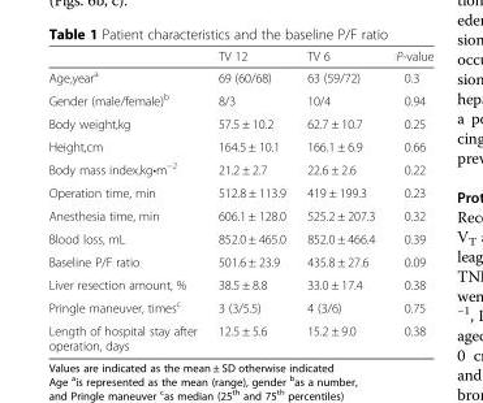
<table><thead><tr><td></td><td>TV 12</td><td>TV 6</td><td>P-value</td></tr></thead><tbody><tr><td>Age,year<sup>a</sup></td><td>69 (60/68)</td><td>63 (59/72)</td><td>0.3</td></tr><tr><td>Gender (male/female)<sup>b</sup></td><td>8/3</td><td>10/4</td><td>0.94</td></tr><tr><td>Body weight,kg</td><td>57.5 ± 10.2</td><td>62.7 ± 10.7</td><td>0.25</td></tr><tr><td>Height,cm</td><td>164.5 ± 10.1</td><td>166.1 ± 6.9</td><td>0.66</td></tr><tr><td>Body mass index,kg•m<sup>−2</sup></td><td>21.2 ± 2.7</td><td>22.6 ± 2.6</td><td>0.22</td></tr><tr><td>Operation time, min</td><td>512.8 ± 113.9</td><td>419 ± 199.3</td><td>0.23</td></tr><tr><td>Anesthesia time, min</td><td>606.1 ± 128.0</td><td>525.2 ± 207.3</td><td>0.32</td></tr><tr><td>Blood loss, mL</td><td>852.0 ± 465.0</td><td>852.0 ± 466.4</td><td>0.39</td></tr><tr><td>Baseline P/F ratio</td><td>501.6 ± 23.9</td><td>435.8 ± 27.6</td><td>0.09</td></tr><tr><td>Liver resection amount, %</td><td>38.5 ± 8.8</td><td>33.0 ± 17.4</td><td>0.38</td></tr><tr><td>Pringle maneuver, times<sup>c</sup></td><td>3 (3/5.5)</td><td>4 (3/6)</td><td>0.75</td></tr><tr><td>Length of hospital stay after operation, days</td><td>12.5 ± 5.6</td><td>15.2 ± 9.0</td><td>0.38</td></tr></tbody></table>